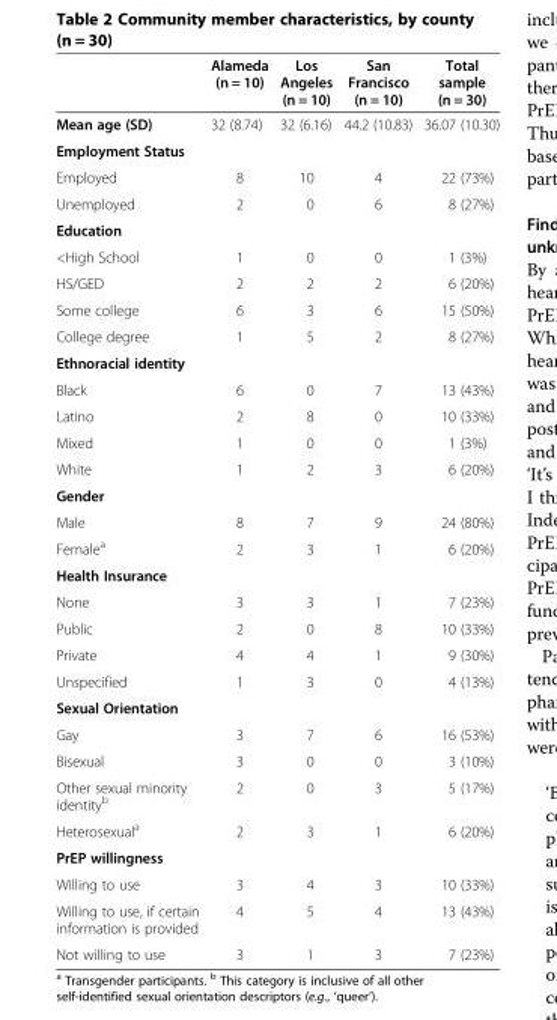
<table><thead><tr><td></td><td>Alameda (n = 10)</td><td>Los Angeles (n = 10)</td><td>San Francisco (n = 10)</td><td>Total sample (n = 30)</td></tr></thead><tbody><tr><td>Mean age (SD)</td><td>32 (8.74)</td><td>32 (6.16)</td><td>44.2 (10.83)</td><td>36.07 (10.30)</td></tr><tr><td colspan="5">Employment Status</td></tr><tr><td>Employed</td><td>8</td><td>10</td><td>4</td><td>22 (73%)</td></tr><tr><td>Unemployed</td><td>2</td><td>0</td><td>6</td><td>8 (27%)</td></tr><tr><td colspan="5">Education</td></tr><tr><td>&lt;High School</td><td>1</td><td>0</td><td>0</td><td>1 (3%)</td></tr><tr><td>HS/GED</td><td>2</td><td>2</td><td>2</td><td>6 (20%)</td></tr><tr><td>Some college</td><td>6</td><td>3</td><td>6</td><td>15 (50%)</td></tr><tr><td>College degree</td><td>1</td><td>5</td><td>2</td><td>8 (27%)</td></tr><tr><td colspan="5">Ethnoracial identity</td></tr><tr><td>Black</td><td>6</td><td>0</td><td>7</td><td>13 (43%)</td></tr><tr><td>Latino</td><td>2</td><td>8</td><td>0</td><td>10 (33%)</td></tr><tr><td>Mixed</td><td>1</td><td>0</td><td>0</td><td>1 (3%)</td></tr><tr><td>White</td><td>1</td><td>2</td><td>3</td><td>6 (20%)</td></tr><tr><td colspan="5">Gender</td></tr><tr><td>Male</td><td>8</td><td>7</td><td>9</td><td>24 (80%)</td></tr><tr><td>Female<sup>a</sup></td><td>2</td><td>3</td><td>1</td><td>6 (20%)</td></tr><tr><td colspan="5">Health Insurance</td></tr><tr><td>None</td><td>3</td><td>3</td><td>1</td><td>7 (23%)</td></tr><tr><td>Public</td><td>2</td><td>0</td><td>8</td><td>10 (33%)</td></tr><tr><td>Private</td><td>4</td><td>4</td><td>1</td><td>9 (30%)</td></tr><tr><td>Unspecified</td><td>1</td><td>3</td><td>0</td><td>4 (13%)</td></tr><tr><td colspan="5">Sexual Orientation</td></tr><tr><td>Gay</td><td>3</td><td>7</td><td>6</td><td>16 (53%)</td></tr><tr><td>Bisexual</td><td>3</td><td>0</td><td>0</td><td>3 (10%)</td></tr><tr><td>Other sexual minority identity<sup>b</sup></td><td>2</td><td>0</td><td>3</td><td>5 (17%)</td></tr><tr><td>Heterosexual<sup>a</sup></td><td>2</td><td>3</td><td>1</td><td>6 (20%)</td></tr><tr><td colspan="5">PrEP willingness</td></tr><tr><td>Willing to use</td><td>3</td><td>4</td><td>3</td><td>10 (33%)</td></tr><tr><td>Willing to use, if certain information is provided</td><td>4</td><td>5</td><td>4</td><td>13 (43%)</td></tr><tr><td>Not willing to use</td><td>3</td><td>1</td><td>3</td><td>7 (23%)</td></tr></tbody></table>